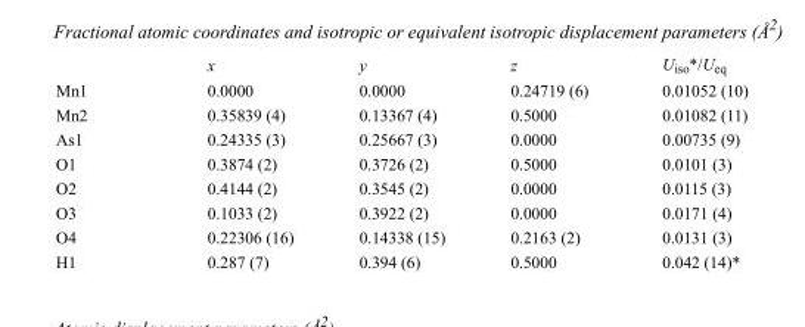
<table><thead><tr><td></td><td>x</td><td>y</td><td>z</td><td>U<sub>iso</sub>*/U<sub>eq</sub></td></tr></thead><tbody><tr><td>Mn1</td><td>0.0000</td><td>0.0000</td><td>0.24719 (6)</td><td>0.01052 (10)</td></tr><tr><td>Mn2</td><td>0.35839 (4)</td><td>0.13367 (4)</td><td>0.5000</td><td>0.01082 (11)</td></tr><tr><td>As1</td><td>0.24335 (3)</td><td>0.25667 (3)</td><td>0.0000</td><td>0.00735 (9)</td></tr><tr><td>O1</td><td>0.3874 (2)</td><td>0.3726 (2)</td><td>0.5000</td><td>0.0101 (3)</td></tr><tr><td>O2</td><td>0.4144 (2)</td><td>0.3545 (2)</td><td>0.0000</td><td>0.0115 (3)</td></tr><tr><td>O3</td><td>0.1033 (2)</td><td>0.3922 (2)</td><td>0.0000</td><td>0.0171 (4)</td></tr><tr><td>O4</td><td>0.22306 (16)</td><td>0.14338 (15)</td><td>0.2163 (2)</td><td>0.0131 (3)</td></tr><tr><td>H1</td><td>0.287 (7)</td><td>0.394 (6)</td><td>0.5000</td><td>0.042 (14)*</td></tr></tbody></table>